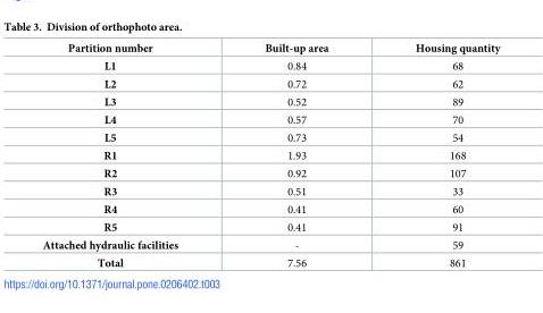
<table><thead><tr><td>Partition number</td><td>Built-up area</td><td>Housing quantity</td></tr></thead><tbody><tr><td>L1</td><td>0.84</td><td>68</td></tr><tr><td>L2</td><td>0.72</td><td>62</td></tr><tr><td>L3</td><td>0.52</td><td>89</td></tr><tr><td>L4</td><td>0.57</td><td>70</td></tr><tr><td>L5</td><td>0.73</td><td>54</td></tr><tr><td>R1</td><td>1.93</td><td>168</td></tr><tr><td>R2</td><td>0.92</td><td>107</td></tr><tr><td>R3</td><td>0.51</td><td>33</td></tr><tr><td>R4</td><td>0.41</td><td>60</td></tr><tr><td>R5</td><td>0.41</td><td>91</td></tr><tr><td>Attached hydraulic facilities</td><td>-</td><td>59</td></tr><tr><td>Total</td><td>7.56</td><td>861</td></tr></tbody></table>